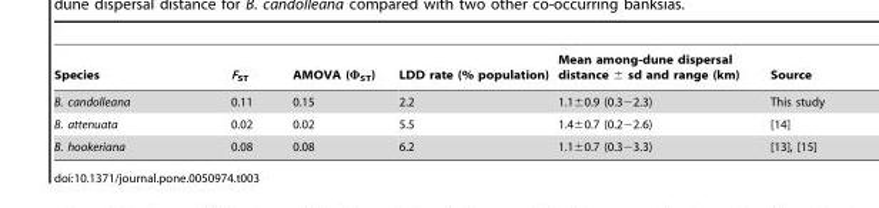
<table><thead><tr><td>Species</td><td>F<sub>ST</sub></td><td>AMOVA (Φ<sub>ST</sub>)</td><td>LDD rate (% population)</td><td>Mean among-dune dispersal distance ± sd and range (km)</td><td>Source</td></tr></thead><tbody><tr><td>B. candolleana</td><td>0.11</td><td>0.15</td><td>2.2</td><td>1.1±0.9 (0.3−2.3)</td><td>This study</td></tr><tr><td>B. attenuata</td><td>0.02</td><td>0.02</td><td>5.5</td><td>1.4±0.7 (0.2−2.6)</td><td>[14]</td></tr><tr><td>B. hookeriana</td><td>0.08</td><td>0.08</td><td>6.2</td><td>1.1±0.7 (0.3−3.3)</td><td>[13], [15]</td></tr></tbody></table>